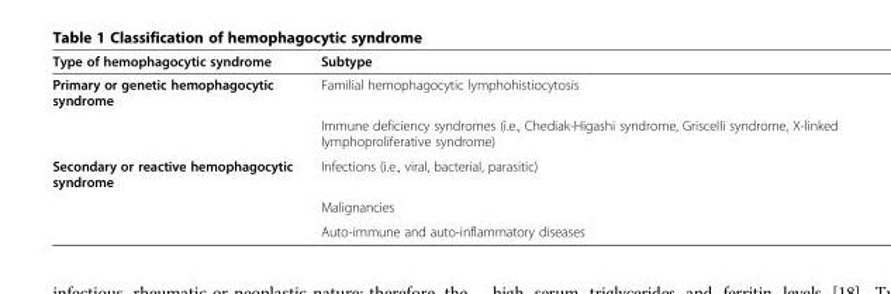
<table><thead><tr><td>Type of hemophagocytic syndrome</td><td>Subtype</td></tr></thead><tbody><tr><td rowspan="2">Primary or genetic hemophagocytic syndrome</td><td>Familial hemophagocytic lymphohistiocytosis</td></tr><tr><td>Immune deficiency syndromes (i.e., Chediak-Higashi syndrome, Griscelli syndrome, X-linked lymphoproliferative syndrome)</td></tr><tr><td rowspan="3">Secondary or reactive hemophagocytic syndrome</td><td>Infections (i.e., viral, bacterial, parasitic)</td></tr><tr><td>Malignancies</td></tr><tr><td>Auto-immune and auto-inflammatory diseases</td></tr></tbody></table>